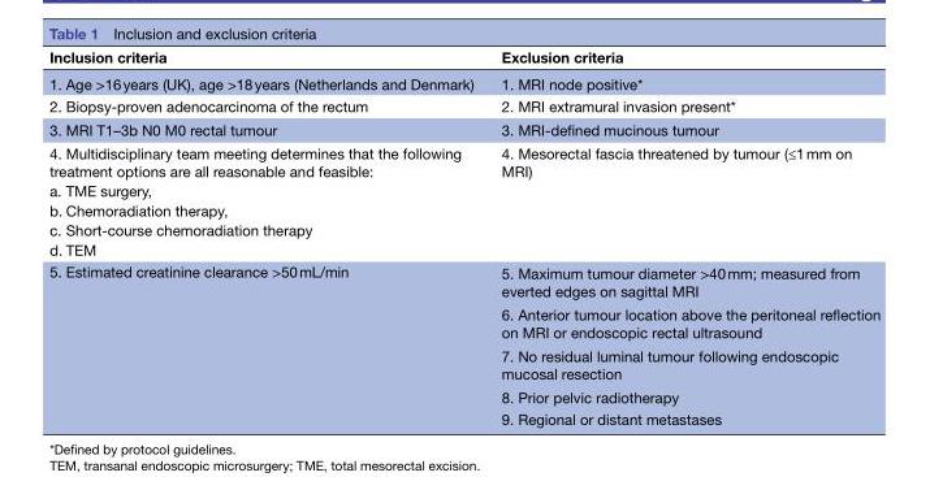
<table><thead><tr><td>Inclusion criteria</td><td>Exclusion criteria</td></tr></thead><tbody><tr><td>1. Age &gt;16 years (UK), age &gt;18 years (Netherlands and Denmark)</td><td>1. MRI node positive*</td></tr><tr><td>2. Biopsy-proven adenocarcinoma of the rectum</td><td>2. MRI extramural invasion present*</td></tr><tr><td>3. MRI T1–3b N0 M0 rectal tumour</td><td>3. MRI-defined mucinous tumour</td></tr><tr><td>4. Multidisciplinary team meeting determines that the following treatment options are all reasonable and feasible: a. TME surgery, b. Chemoradiation therapy, c. Short-course chemoradiation therapy d. TEM</td><td>4. Mesorectal fascia threatened by tumour (≤1 mm on MRI)</td></tr><tr><td rowspan="5">5. Estimated creatinine clearance &gt;50 mL/min</td><td>5. Maximum tumour diameter &gt;40 mm; measured from everted edges on sagittal MRI</td></tr><tr><td>6. Anterior tumour location above the peritoneal reflection on MRI or endoscopic rectal ultrasound</td></tr><tr><td>7. No residual luminal tumour following endoscopic mucosal resection</td></tr><tr><td>8. Prior pelvic radiotherapy</td></tr><tr><td>9. Regional or distant metastases</td></tr></tbody></table>